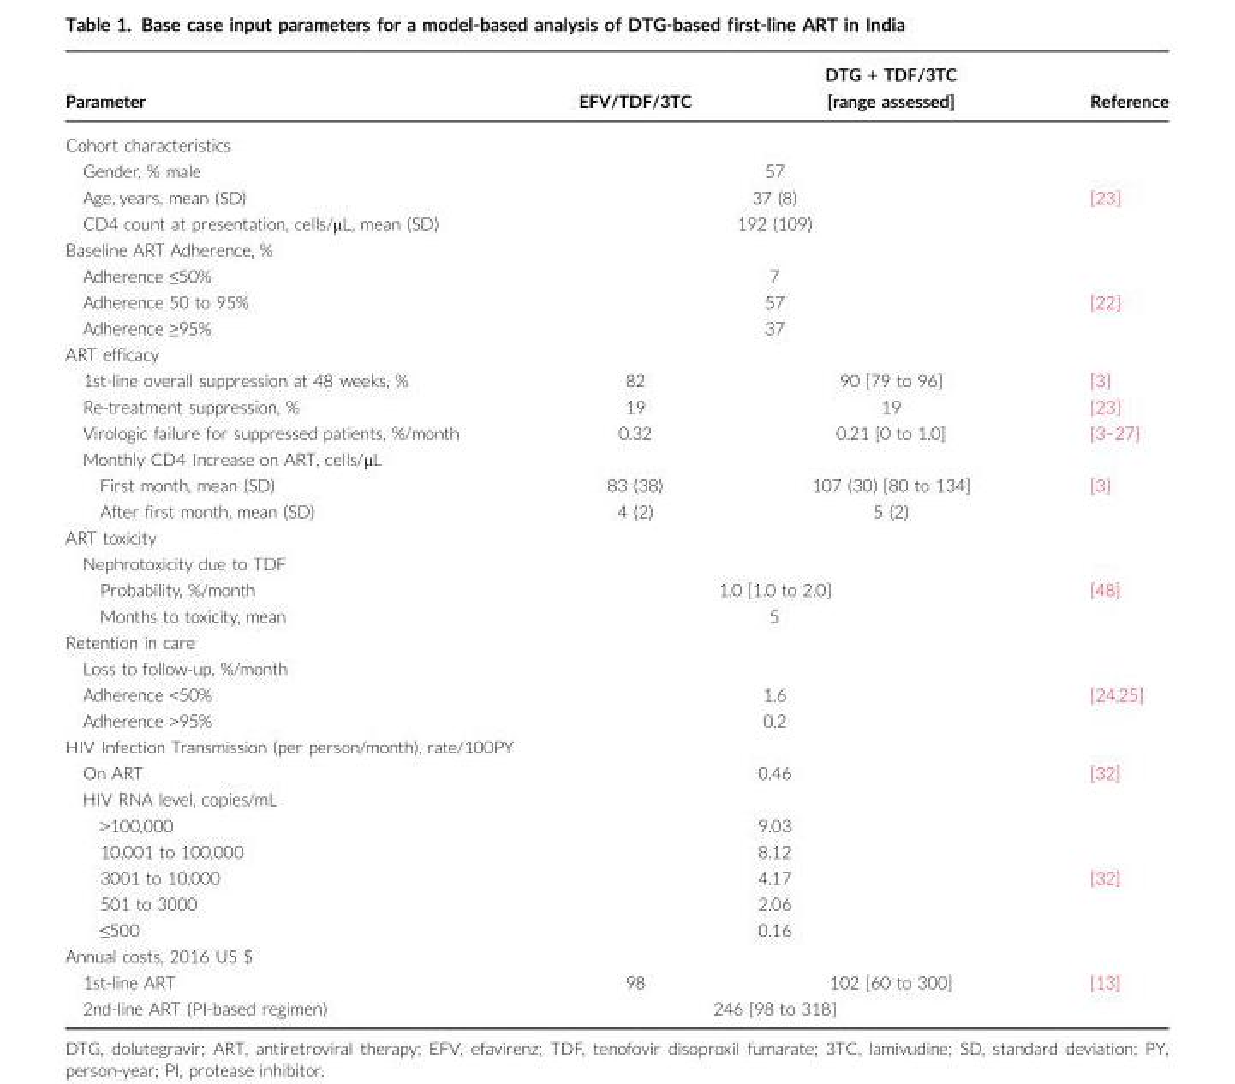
<table><thead><tr><td>Parameter</td><td>EFV/TDF/3TC</td><td>DTG + TDF/3TC [range assessed]</td><td>Reference</td></tr></thead><tbody><tr><td colspan="4">Cohort characteristics</td></tr><tr><td>Gender, % male</td><td colspan="2">57</td><td></td></tr><tr><td>Age, years, mean (SD)</td><td colspan="2">37 (8)</td><td>[23]</td></tr><tr><td>CD4 count at presentation, cells/μL, mean (SD)</td><td colspan="2">192 (109)</td><td></td></tr><tr><td colspan="4">Baseline ART Adherence, %</td></tr><tr><td>Adherence ≤50%</td><td colspan="2">7</td><td></td></tr><tr><td>Adherence 50 to 95%</td><td colspan="2">57</td><td>[22]</td></tr><tr><td>Adherence ≥95%</td><td colspan="2">37</td><td></td></tr><tr><td colspan="4">ART efficacy</td></tr><tr><td>1st-line overall suppression at 48 weeks, %</td><td>82</td><td>90 [79 to 96]</td><td>[3]</td></tr><tr><td>Re-treatment suppression, %</td><td>19</td><td>19</td><td>[23]</td></tr><tr><td>Virologic failure for suppressed patients, %/month</td><td>0.32</td><td>0.21 [0 to 1.0]</td><td>[3–27]</td></tr><tr><td colspan="4">Monthly CD4 Increase on ART, cells/μL</td></tr><tr><td>First month, mean (SD)</td><td>83 (38)</td><td>107 (30) [80 to 134]</td><td>[3]</td></tr><tr><td>After first month, mean (SD)</td><td>4 (2)</td><td>5 (2)</td><td></td></tr><tr><td colspan="4">ART toxicity</td></tr><tr><td colspan="4">Nephrotoxicity due to TDF</td></tr><tr><td>Probability, %/month</td><td colspan="2">1.0 [1.0 to 2.0]</td><td rowspan="2">[48]</td></tr><tr><td>Months to toxicity, mean</td><td colspan="2">5</td></tr><tr><td colspan="4">Retention in care</td></tr><tr><td colspan="4">Loss to follow-up, %/month</td></tr><tr><td>Adherence &lt;50%</td><td colspan="2">1.6</td><td rowspan="2">[24,25]</td></tr><tr><td>Adherence &gt;95%</td><td colspan="2">0.2</td></tr><tr><td colspan="4">HIV Infection Transmission (per person/month), rate/100PY</td></tr><tr><td>On ART</td><td colspan="2">0.46</td><td>[32]</td></tr><tr><td colspan="4">HIV RNA level, copies/mL</td></tr><tr><td>&gt;100,000</td><td colspan="2">9.03</td><td></td></tr><tr><td>10,001 to 100,000</td><td colspan="2">8.12</td><td></td></tr><tr><td>3001 to 10,000</td><td colspan="2">4.17</td><td>[32]</td></tr><tr><td>501 to 3000</td><td colspan="2">2.06</td><td></td></tr><tr><td>≤500</td><td colspan="2">0.16</td><td></td></tr><tr><td colspan="4">Annual costs, 2016 US $</td></tr><tr><td>1st-line ART</td><td>98</td><td>102 [60 to 300]</td><td rowspan="2">[13]</td></tr><tr><td>2nd-line ART (PI-based regimen)</td><td colspan="2">246 [98 to 318]</td></tr></tbody></table>